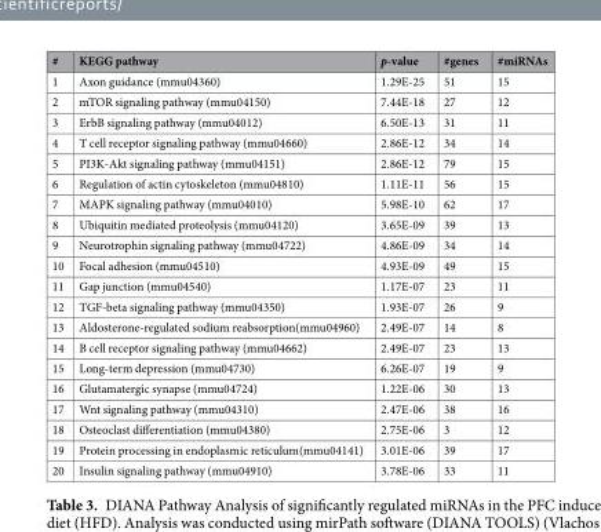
<table><thead><tr><td>#</td><td>KEGG pathway</td><td>p-value</td><td>#genes</td><td>#miRNAs</td></tr></thead><tbody><tr><td>1</td><td>Axon guidance (mmu04360)</td><td>1.29E-25</td><td>51</td><td>15</td></tr><tr><td>2</td><td>mTOR signaling pathway (mmu04150)</td><td>7.44E-18</td><td>27</td><td>12</td></tr><tr><td>3</td><td>ErbB signaling pathway (mmu04012)</td><td>6.50E-13</td><td>31</td><td>11</td></tr><tr><td>4</td><td>T cell receptor signaling pathway (mmu04660)</td><td>2.86E-12</td><td>34</td><td>14</td></tr><tr><td>5</td><td>PI3K-Akt signaling pathway (mmu04151)</td><td>2.86E-12</td><td>79</td><td>15</td></tr><tr><td>6</td><td>Regulation of actin cytoskeleton (mmu04810)</td><td>1.11E-11</td><td>56</td><td>15</td></tr><tr><td>7</td><td>MAPK signaling pathway (mmu04010)</td><td>5.98E-10</td><td>62</td><td>17</td></tr><tr><td>8</td><td>Ubiquitin mediated proteolysis (mmu04120)</td><td>3.65E-09</td><td>39</td><td>13</td></tr><tr><td>9</td><td>Neurotrophin signaling pathway (mmu04722)</td><td>4.86E-09</td><td>34</td><td>14</td></tr><tr><td>10</td><td>Focal adhesion (mmu04510)</td><td>4.93E-09</td><td>49</td><td>15</td></tr><tr><td>11</td><td>Gap junction (mmu04540)</td><td>1.17E-07</td><td>23</td><td>11</td></tr><tr><td>12</td><td>TGF-beta signaling pathway (mmu04350)</td><td>1.93E-07</td><td>26</td><td>9</td></tr><tr><td>13</td><td>Aldosterone-regulated sodium reabsorption(mmu04960)</td><td>2.49E-07</td><td>14</td><td>8</td></tr><tr><td>14</td><td>B cell receptor signaling pathway (mmu04662)</td><td>2.49E-07</td><td>23</td><td>13</td></tr><tr><td>15</td><td>Long-term depression (mmu04730)</td><td>6.26E-07</td><td>19</td><td>9</td></tr><tr><td>16</td><td>Glutamatergic synapse (mmu04724)</td><td>1.22E-06</td><td>30</td><td>13</td></tr><tr><td>17</td><td>Wnt signaling pathway (mmu04310)</td><td>2.47E-06</td><td>38</td><td>16</td></tr><tr><td>18</td><td>Osteoclast differentiation (mmu04380)</td><td>2.75E-06</td><td>3</td><td>12</td></tr><tr><td>19</td><td>Protein processing in endoplasmic reticulum(mmu04141)</td><td>3.01E-06</td><td>39</td><td>17</td></tr><tr><td>20</td><td>Insulin signaling pathway (mmu04910)</td><td>3.78E-06</td><td>33</td><td>11</td></tr></tbody></table>